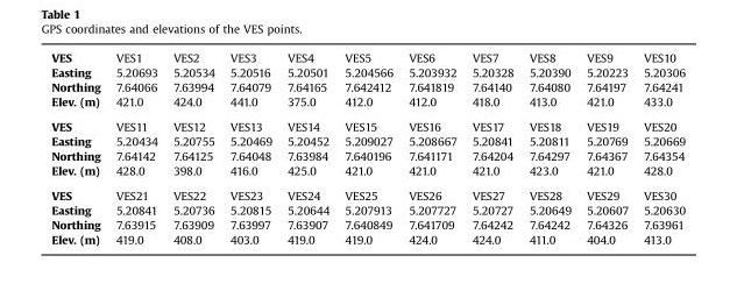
<table><tbody><tr><td>VES</td><td>VES1</td><td>VES2</td><td>VES3</td><td>VES4</td><td>VES5</td><td>VES6</td><td>VES7</td><td>VES8</td><td>VES9</td><td>VES10</td></tr><tr><td>Easting</td><td>5.20693</td><td>5.20534</td><td>5.20516</td><td>5.20501</td><td>5.204566</td><td>5.203932</td><td>5.20328</td><td>5.20390</td><td>5.20223</td><td>5.20306</td></tr><tr><td>Northing</td><td>7.64066</td><td>7.63994</td><td>7.64079</td><td>7.64165</td><td>7.642412</td><td>7.641819</td><td>7.64140</td><td>7.64080</td><td>7.64197</td><td>7.64241</td></tr><tr><td>Elev. (m)</td><td>421.0</td><td>424.0</td><td>441.0</td><td>375.0</td><td>412.0</td><td>412.0</td><td>418.0</td><td>413.0</td><td>421.0</td><td>433.0</td></tr><tr><td>VES</td><td>VES11</td><td>VES12</td><td>VES13</td><td>VES14</td><td>VES15</td><td>VES16</td><td>VES17</td><td>VES18</td><td>VES19</td><td>VES20</td></tr><tr><td>Easting</td><td>5.20434</td><td>5.20755</td><td>5.20469</td><td>5.20452</td><td>5.209027</td><td>5.208667</td><td>5.20841</td><td>5.20811</td><td>5.20769</td><td>5.20669</td></tr><tr><td>Northing</td><td>7.64142</td><td>7.64125</td><td>7.64048</td><td>7.63984</td><td>7.640196</td><td>7.641171</td><td>7.64204</td><td>7.64297</td><td>7.64367</td><td>7.64354</td></tr><tr><td>Elev. (m)</td><td>428.0</td><td>398.0</td><td>416.0</td><td>425.0</td><td>421.0</td><td>421.0</td><td>421.0</td><td>423.0</td><td>421.0</td><td>428.0</td></tr><tr><td>VES</td><td>VES21</td><td>VES22</td><td>VES23</td><td>VES24</td><td>VES25</td><td>VES26</td><td>VES27</td><td>VES28</td><td>VES29</td><td>VES30</td></tr><tr><td>Easting</td><td>5.20841</td><td>5.20736</td><td>5.20815</td><td>5.20644</td><td>5.207913</td><td>5.207727</td><td>5.20727</td><td>5.20649</td><td>5.20607</td><td>5.20630</td></tr><tr><td>Northing</td><td>7.63915</td><td>7.63909</td><td>7.63997</td><td>7.63907</td><td>7.640849</td><td>7.641709</td><td>7.64242</td><td>7.64242</td><td>7.64326</td><td>7.63961</td></tr><tr><td>Elev. (m)</td><td>419.0</td><td>408.0</td><td>403.0</td><td>419.0</td><td>419.0</td><td>424.0</td><td>424.0</td><td>411.0</td><td>404.0</td><td>413.0</td></tr></tbody></table>